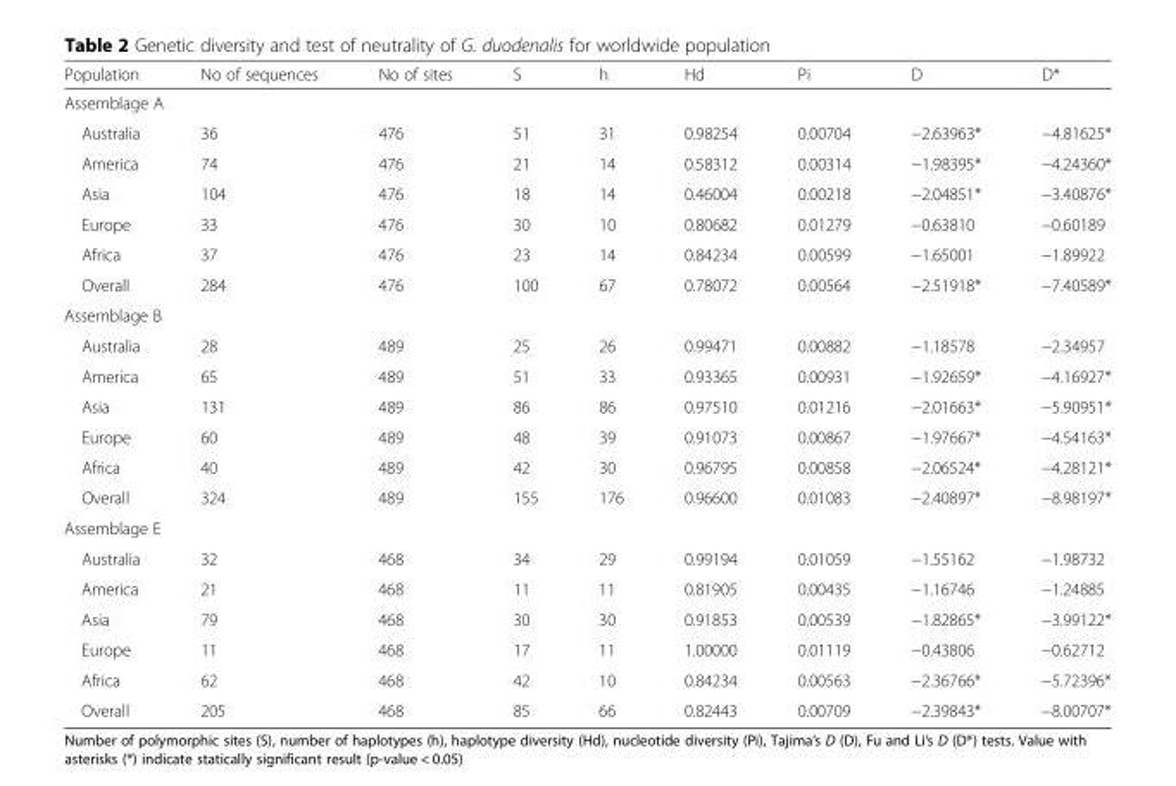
<table><thead><tr><td>Population</td><td>No of sequences</td><td>No of sites</td><td>S</td><td>h</td><td>Hd</td><td>Pi</td><td>D</td><td>D*</td></tr></thead><tbody><tr><td colspan="9">Assemblage A</td></tr><tr><td>Australia</td><td>36</td><td>476</td><td>51</td><td>31</td><td>0.98254</td><td>0.00704</td><td>−2.63963*</td><td>−4.81625*</td></tr><tr><td>America</td><td>74</td><td>476</td><td>21</td><td>14</td><td>0.58312</td><td>0.00314</td><td>−1.98395*</td><td>−4.24360*</td></tr><tr><td>Asia</td><td>104</td><td>476</td><td>18</td><td>14</td><td>0.46004</td><td>0.00218</td><td>−2.04851*</td><td>−3.40876*</td></tr><tr><td>Europe</td><td>33</td><td>476</td><td>30</td><td>10</td><td>0.80682</td><td>0.01279</td><td>−0.63810</td><td>−0.60189</td></tr><tr><td>Africa</td><td>37</td><td>476</td><td>23</td><td>14</td><td>0.84234</td><td>0.00599</td><td>−1.65001</td><td>−1.89922</td></tr><tr><td>Overall</td><td>284</td><td>476</td><td>100</td><td>67</td><td>0.78072</td><td>0.00564</td><td>−2.51918*</td><td>−7.40589*</td></tr><tr><td colspan="9">Assemblage B</td></tr><tr><td>Australia</td><td>28</td><td>489</td><td>25</td><td>26</td><td>0.99471</td><td>0.00882</td><td>−1.18578</td><td>−2.34957</td></tr><tr><td>America</td><td>65</td><td>489</td><td>51</td><td>33</td><td>0.93365</td><td>0.00931</td><td>−1.92659*</td><td>−4.16927*</td></tr><tr><td>Asia</td><td>131</td><td>489</td><td>86</td><td>86</td><td>0.97510</td><td>0.01216</td><td>−2.01663*</td><td>−5.90951*</td></tr><tr><td>Europe</td><td>60</td><td>489</td><td>48</td><td>39</td><td>0.91073</td><td>0.00867</td><td>−1.97667*</td><td>−4.54163*</td></tr><tr><td>Africa</td><td>40</td><td>489</td><td>42</td><td>30</td><td>0.96795</td><td>0.00858</td><td>−2.06524*</td><td>−4.28121*</td></tr><tr><td>Overall</td><td>324</td><td>489</td><td>155</td><td>176</td><td>0.96600</td><td>0.01083</td><td>−2.40897*</td><td>−8.98197*</td></tr><tr><td colspan="9">Assemblage E</td></tr><tr><td>Australia</td><td>32</td><td>468</td><td>34</td><td>29</td><td>0.99194</td><td>0.01059</td><td>−1.55162</td><td>−1.98732</td></tr><tr><td>America</td><td>21</td><td>468</td><td>11</td><td>11</td><td>0.81905</td><td>0.00435</td><td>−1.16746</td><td>−1.24885</td></tr><tr><td>Asia</td><td>79</td><td>468</td><td>30</td><td>30</td><td>0.91853</td><td>0.00539</td><td>−1.82865*</td><td>−3.99122*</td></tr><tr><td>Europe</td><td>11</td><td>468</td><td>17</td><td>11</td><td>1.00000</td><td>0.01119</td><td>−0.43806</td><td>−0.62712</td></tr><tr><td>Africa</td><td>62</td><td>468</td><td>42</td><td>10</td><td>0.84234</td><td>0.00563</td><td>−2.36766*</td><td>−5.72396*</td></tr><tr><td>Overall</td><td>205</td><td>468</td><td>85</td><td>66</td><td>0.82443</td><td>0.00709</td><td>−2.39843*</td><td>−8.00707*</td></tr></tbody></table>